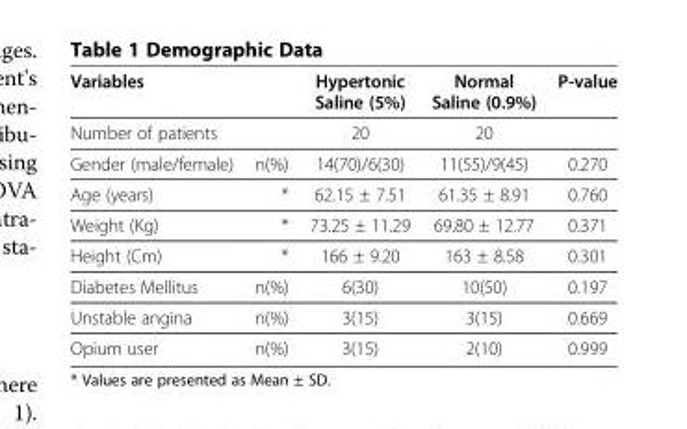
<table><thead><tr><td rowspan="2" colspan="2">Variables Number of patients</td><td rowspan="3">Hypertonic Saline (5%) 20 14(70)/6(30)</td><td rowspan="3">Normal Saline (0.9%) 20 11(55)/9(45)</td><td rowspan="3">P-value 0.270</td></tr><tr></tr><tr><td>Gender (male/female)</td><td>n(%)</td></tr></thead><tbody><tr><td>Age (years)</td><td>*</td><td>62.15 ± 7.51</td><td>61.35 ± 8.91</td><td>0.760</td></tr><tr><td>Weight (Kg)</td><td>*</td><td>73.25 ± 11.29</td><td>69.80 ± 12.77</td><td>0.371</td></tr><tr><td>Height (Cm)</td><td>*</td><td>166 ± 9.20</td><td>163 ± 8.58</td><td>0.301</td></tr><tr><td>Diabetes Mellitus</td><td>n(%)</td><td>6(30)</td><td>10(50)</td><td>0.197</td></tr><tr><td>Unstable angina</td><td>n(%)</td><td>3(15)</td><td>3(15)</td><td>0.669</td></tr><tr><td>Opium user</td><td>n(%)</td><td>3(15)</td><td>2(10)</td><td>0.999</td></tr></tbody></table>